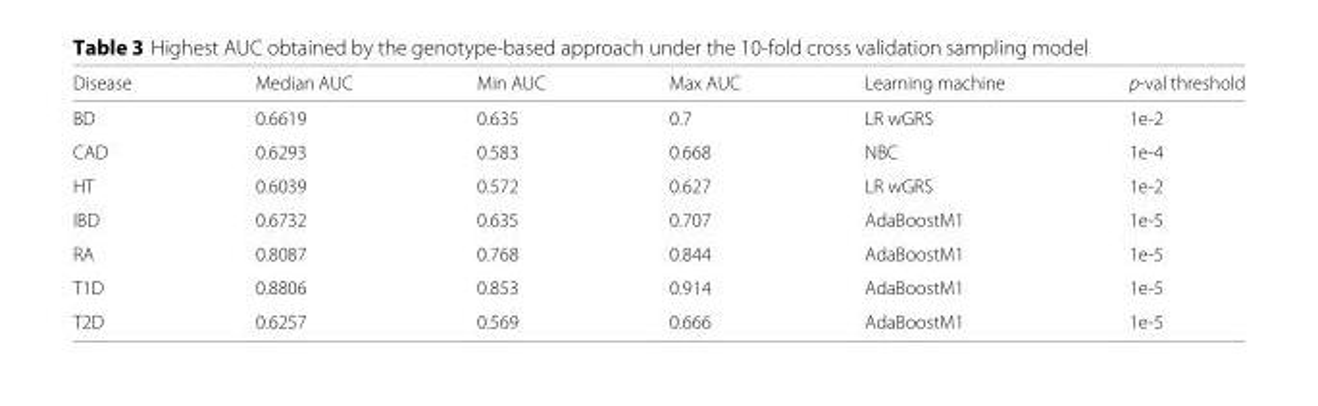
<table><thead><tr><td>Disease</td><td>Median AUC</td><td>Min AUC</td><td>Max AUC</td><td>Learning machine</td><td>p-val threshold</td></tr></thead><tbody><tr><td>BD</td><td>0.6619</td><td>0.635</td><td>0.7</td><td>LR wGRS</td><td>1e-2</td></tr><tr><td>CAD</td><td>0.6293</td><td>0.583</td><td>0.668</td><td>NBC</td><td>1e-4</td></tr><tr><td>HT</td><td>0.6039</td><td>0.572</td><td>0.627</td><td>LR wGRS</td><td>1e-2</td></tr><tr><td>IBD</td><td>0.6732</td><td>0.635</td><td>0.707</td><td>AdaBoostM1</td><td>1e-5</td></tr><tr><td>RA</td><td>0.8087</td><td>0.768</td><td>0.844</td><td>AdaBoostM1</td><td>1e-5</td></tr><tr><td>T1D</td><td>0.8806</td><td>0.853</td><td>0.914</td><td>AdaBoostM1</td><td>1e-5</td></tr><tr><td>T2D</td><td>0.6257</td><td>0.569</td><td>0.666</td><td>AdaBoostM1</td><td>1e-5</td></tr></tbody></table>